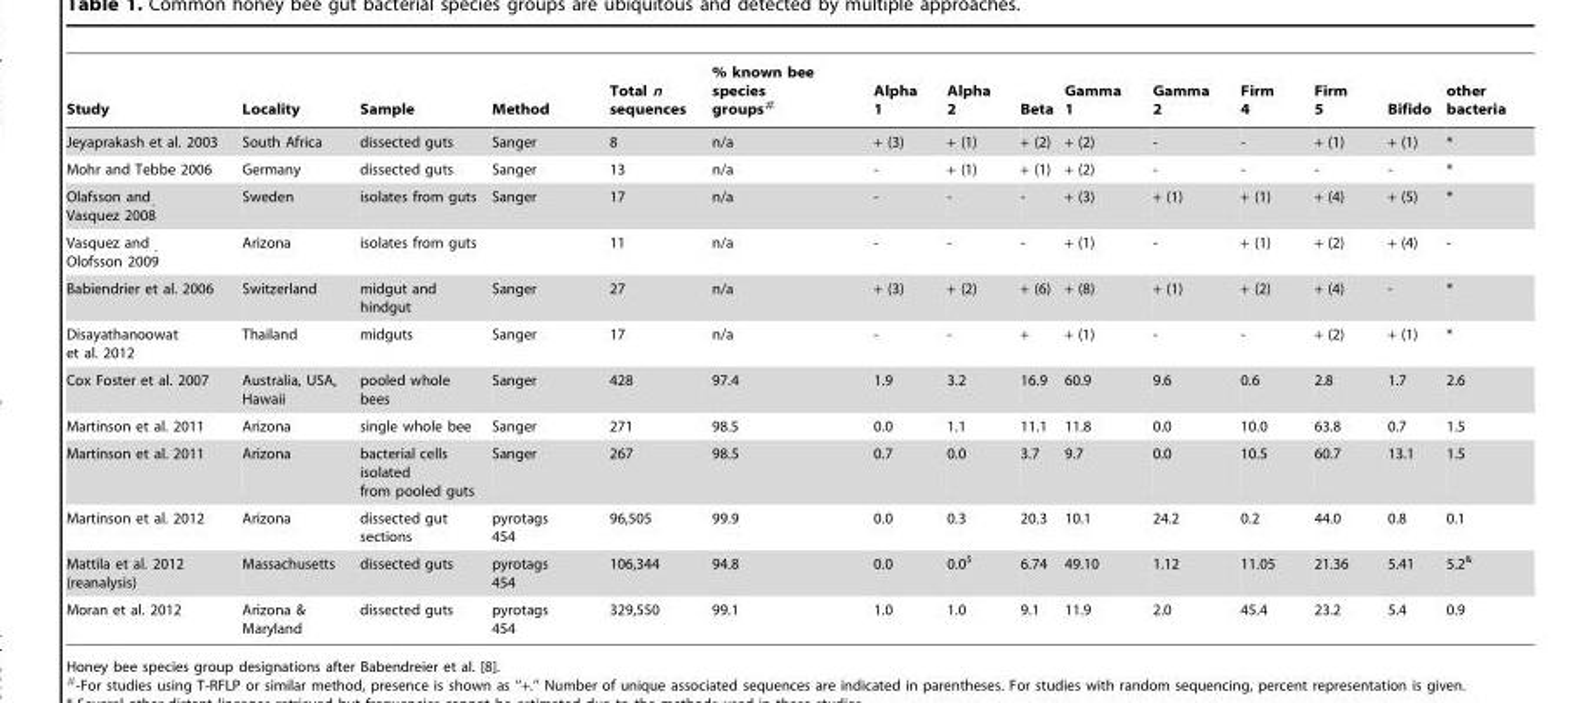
<table><thead><tr><td>Study</td><td>Locality</td><td>Sample</td><td>Method</td><td>Total n sequences</td><td>% known bee species groups#</td><td>Alpha 1</td><td>Alpha 2</td><td>Beta</td><td>Gamma 1</td><td>Gamma 2</td><td>Firm 4</td><td>Firm 5</td><td>Bifido</td><td>other bacteria</td></tr></thead><tbody><tr><td>Jeyaprakash et al. 2003</td><td>South Africa</td><td>dissected guts</td><td>Sanger</td><td>8</td><td>n/a</td><td>+ (3)</td><td>+ (1)</td><td>+ (2)</td><td>+ (2)</td><td>-</td><td>-</td><td>+ (1)</td><td>+ (1)</td><td>*</td></tr><tr><td>Mohr and Tebbe 2006</td><td>Germany</td><td>dissected guts</td><td>Sanger</td><td>13</td><td>n/a</td><td>-</td><td>+ (1)</td><td>+ (1)</td><td>+ (2)</td><td>-</td><td>-</td><td>-</td><td>-</td><td>*</td></tr><tr><td>Olafsson and Vasquez 2008 ˆ</td><td>Sweden</td><td>isolates from guts</td><td>Sanger</td><td>17</td><td>n/a</td><td>-</td><td>-</td><td>-</td><td>+ (3)</td><td>+ (1)</td><td>+ (1)</td><td>+ (4)</td><td>+ (5)</td><td>*</td></tr><tr><td>Vasquez and Olofsson 2009 ˆ</td><td>Arizona</td><td>isolates from guts</td><td></td><td>11</td><td>n/a</td><td>-</td><td>-</td><td>-</td><td>+ (1)</td><td>-</td><td>+ (1)</td><td>+ (2)</td><td>+ (4)</td><td>-</td></tr><tr><td>Babiendrier et al. 2006</td><td>Switzerland</td><td>midgut and hindgut</td><td>Sanger</td><td>27</td><td>n/a</td><td>+ (3)</td><td>+ (2)</td><td>+ (6)</td><td>+ (8)</td><td>+ (1)</td><td>+ (2)</td><td>+ (4)</td><td>-</td><td>*</td></tr><tr><td>Disayathanoowat et al. 2012</td><td>Thailand</td><td>midguts</td><td>Sanger</td><td>17</td><td>n/a</td><td>-</td><td>-</td><td>+</td><td>+ (1)</td><td>-</td><td>-</td><td>+ (2)</td><td>+ (1)</td><td>*</td></tr><tr><td>Cox Foster et al. 2007</td><td>Australia, USA, Hawaii</td><td>pooled whole bees</td><td>Sanger</td><td>428</td><td>97.4</td><td>1.9</td><td>3.2</td><td>16.9</td><td>60.9</td><td>9.6</td><td>0.6</td><td>2.8</td><td>1.7</td><td>2.6</td></tr><tr><td>Martinson et al. 2011</td><td>Arizona</td><td>single whole bee</td><td>Sanger</td><td>271</td><td>98.5</td><td>0.0</td><td>1.1</td><td>11.1</td><td>11.8</td><td>0.0</td><td>10.0</td><td>63.8</td><td>0.7</td><td>1.5</td></tr><tr><td>Martinson et al. 2011</td><td>Arizona</td><td>bacterial cells isolated from pooled guts</td><td>Sanger</td><td>267</td><td>98.5</td><td>0.7</td><td>0.0</td><td>3.7</td><td>9.7</td><td>0.0</td><td>10.5</td><td>60.7</td><td>13.1</td><td>1.5</td></tr><tr><td>Martinson et al. 2012</td><td>Arizona</td><td>dissected gut sections</td><td>pyrotags 454</td><td>96,505</td><td>99.9</td><td>0.0</td><td>0.3</td><td>20.3</td><td>10.1</td><td>24.2</td><td>0.2</td><td>44.0</td><td>0.8</td><td>0.1</td></tr><tr><td>Mattila et al. 2012 (reanalysis)</td><td>Massachusetts</td><td>dissected guts</td><td>pyrotags 454</td><td>106,344</td><td>94.8</td><td>0.0</td><td>0.0$</td><td>6.74</td><td>49.10</td><td>1.12</td><td>11.05</td><td>21.36</td><td>5.41</td><td>5.2&amp;</td></tr><tr><td>Moran et al. 2012</td><td>Arizona &amp; Maryland</td><td>dissected guts</td><td>pyrotags 454</td><td>329,550</td><td>99.1</td><td>1.0</td><td>1.0</td><td>9.1</td><td>11.9</td><td>2.0</td><td>45.4</td><td>23.2</td><td>5.4</td><td>0.9</td></tr></tbody></table>